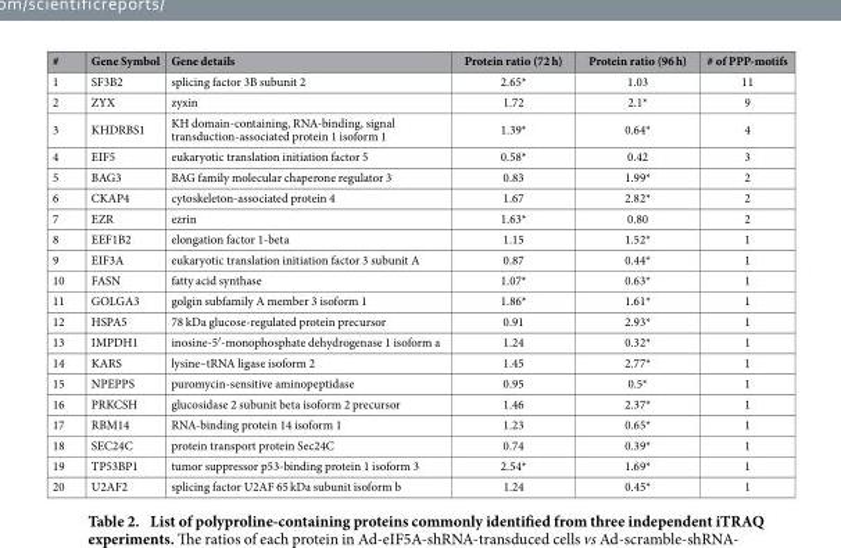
<table><thead><tr><td>#</td><td>Gene Symbol</td><td>Gene details</td><td>Protein ratio (72 h)</td><td>Protein ratio (96 h)</td><td># of PPP-motifs</td></tr></thead><tbody><tr><td>1</td><td>SF3B2</td><td>splicing factor 3B subunit 2</td><td>2.65*</td><td>1.03</td><td>11</td></tr><tr><td>2</td><td>ZYX</td><td>zyxin</td><td>1.72</td><td>2.1*</td><td>9</td></tr><tr><td>3</td><td>KHDRBS1</td><td>KH domain-containing, RNA-binding, signal transduction-associated protein 1 isoform 1</td><td>1.39*</td><td>0.64*</td><td>4</td></tr><tr><td>4</td><td>EIF5</td><td>eukaryotic translation initiation factor 5</td><td>0.58*</td><td>0.42</td><td>3</td></tr><tr><td>5</td><td>BAG3</td><td>BAG family molecular chaperone regulator 3</td><td>0.83</td><td>1.99*</td><td>2</td></tr><tr><td>6</td><td>CKAP4</td><td>cytoskeleton-associated protein 4</td><td>1.67</td><td>2.82*</td><td>2</td></tr><tr><td>7</td><td>EZR</td><td>ezrin</td><td>1.63*</td><td>0.80</td><td>2</td></tr><tr><td>8</td><td>EEF1B2</td><td>elongation factor 1-beta</td><td>1.15</td><td>1.52*</td><td>1</td></tr><tr><td>9</td><td>EIF3A</td><td>eukaryotic translation initiation factor 3 subunit A</td><td>0.87</td><td>0.44*</td><td>1</td></tr><tr><td>10</td><td>FASN</td><td>fatty acid synthase</td><td>1.07*</td><td>0.63*</td><td>1</td></tr><tr><td>11</td><td>GOLGA3</td><td>golgin subfamily A member 3 isoform 1</td><td>1.86*</td><td>1.61*</td><td>1</td></tr><tr><td>12</td><td>HSPA5</td><td>78 kDa glucose-regulated protein precursor</td><td>0.91</td><td>2.93*</td><td>1</td></tr><tr><td>13</td><td>IMPDH1</td><td>inosine-5′ -monophosphate dehydrogenase 1 isoform a</td><td>1.24</td><td>0.32*</td><td>1</td></tr><tr><td>14</td><td>KARS</td><td>lysine–tRNA ligase isoform 2</td><td>1.45</td><td>2.77*</td><td>1</td></tr><tr><td>15</td><td>NPEPPS</td><td>puromycin-sensitive aminopeptidase</td><td>0.95</td><td>0.5*</td><td>1</td></tr><tr><td>16</td><td>PRKCSH</td><td>glucosidase 2 subunit beta isoform 2 precursor</td><td>1.46</td><td>2.37*</td><td>1</td></tr><tr><td>17</td><td>RBM14</td><td>RNA-binding protein 14 isoform 1</td><td>1.23</td><td>0.65*</td><td>1</td></tr><tr><td>18</td><td>SEC24C</td><td>protein transport protein Sec24C</td><td>0.74</td><td>0.39*</td><td>1</td></tr><tr><td>19</td><td>TP53BP1</td><td>tumor suppressor p53-binding protein 1 isoform 3</td><td>2.54*</td><td>1.69*</td><td>1</td></tr><tr><td>20</td><td>U2AF2</td><td>splicing factor U2AF 65 kDa subunit isoform b</td><td>1.24</td><td>0.45*</td><td>1</td></tr></tbody></table>